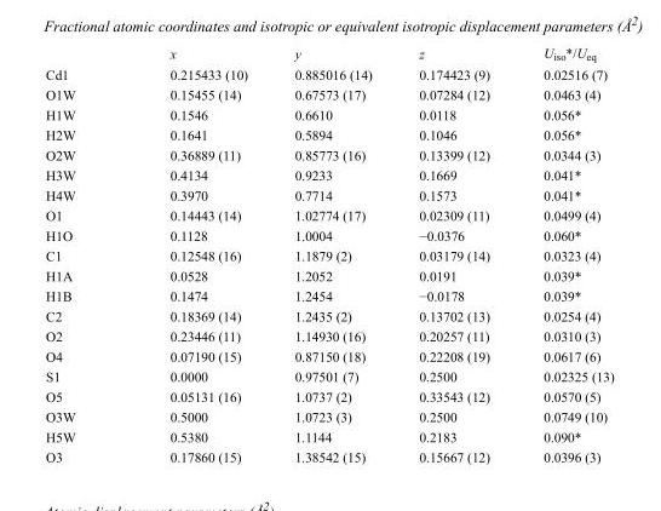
<table><thead><tr><td></td><td>x</td><td>y</td><td>z</td><td>U<sub>iso</sub>*/U<sub>eq</sub></td></tr></thead><tbody><tr><td>Cd1</td><td>0.215433 (10)</td><td>0.885016 (14)</td><td>0.174423 (9)</td><td>0.02516 (7)</td></tr><tr><td>O1W</td><td>0.15455 (14)</td><td>0.67573 (17)</td><td>0.07284 (12)</td><td>0.0463 (4)</td></tr><tr><td>H1W</td><td>0.1546</td><td>0.6610</td><td>0.0118</td><td>0.056*</td></tr><tr><td>H2W</td><td>0.1641</td><td>0.5894</td><td>0.1046</td><td>0.056*</td></tr><tr><td>O2W</td><td>0.36889 (11)</td><td>0.85773 (16)</td><td>0.13399 (12)</td><td>0.0344 (3)</td></tr><tr><td>H3W</td><td>0.4134</td><td>0.9233</td><td>0.1669</td><td>0.041*</td></tr><tr><td>H4W</td><td>0.3970</td><td>0.7714</td><td>0.1573</td><td>0.041*</td></tr><tr><td>O1</td><td>0.14443 (14)</td><td>1.02774 (17)</td><td>0.02309 (11)</td><td>0.0499 (4)</td></tr><tr><td>H1O</td><td>0.1128</td><td>1.0004</td><td>−0.0376</td><td>0.060*</td></tr><tr><td>C1</td><td>0.12548 (16)</td><td>1.1879 (2)</td><td>0.03179 (14)</td><td>0.0323 (4)</td></tr><tr><td>H1A</td><td>0.0528</td><td>1.2052</td><td>0.0191</td><td>0.039*</td></tr><tr><td>H1B</td><td>0.1474</td><td>1.2454</td><td>−0.0178</td><td>0.039*</td></tr><tr><td>C2</td><td>0.18369 (14)</td><td>1.2435 (2)</td><td>0.13702 (13)</td><td>0.0254 (4)</td></tr><tr><td>O2</td><td>0.23446 (11)</td><td>1.14930 (16)</td><td>0.20257 (11)</td><td>0.0310 (3)</td></tr><tr><td>O4</td><td>0.07190 (15)</td><td>0.87150 (18)</td><td>0.22208 (19)</td><td>0.0617 (6)</td></tr><tr><td>S1</td><td>0.0000</td><td>0.97501 (7)</td><td>0.2500</td><td>0.02325 (13)</td></tr><tr><td>O5</td><td>0.05131 (16)</td><td>1.0737 (2)</td><td>0.33543 (12)</td><td>0.0570 (5)</td></tr><tr><td>O3W</td><td>0.5000</td><td>1.0723 (3)</td><td>0.2500</td><td>0.0749 (10)</td></tr><tr><td>H5W</td><td>0.5380</td><td>1.1144</td><td>0.2183</td><td>0.090*</td></tr><tr><td>O3</td><td>0.17860 (15)</td><td>1.38542 (15)</td><td>0.15667 (12)</td><td>0.0396 (3)</td></tr></tbody></table>